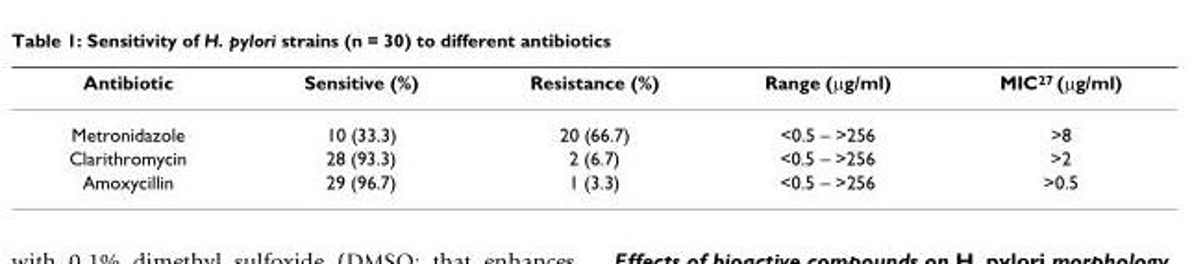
<table><thead><tr><td>Antibiotic</td><td>Sensitive (%)</td><td>Resistance (%)</td><td>Range (µg/ml)</td><td>MIC<sup>27</sup> (µg/ml)</td></tr></thead><tbody><tr><td>Metronidazole</td><td>10 (33.3)</td><td>20 (66.7)</td><td>&lt;0.5 – &gt;256</td><td>&gt;8</td></tr><tr><td>Clarithromycin</td><td>28 (93.3)</td><td>2 (6.7)</td><td>&lt;0.5 – &gt;256</td><td>&gt;2</td></tr><tr><td>Amoxycillin</td><td>29 (96.7)</td><td>1 (3.3)</td><td>&lt;0.5 – &gt;256</td><td>&gt;0.5</td></tr></tbody></table>